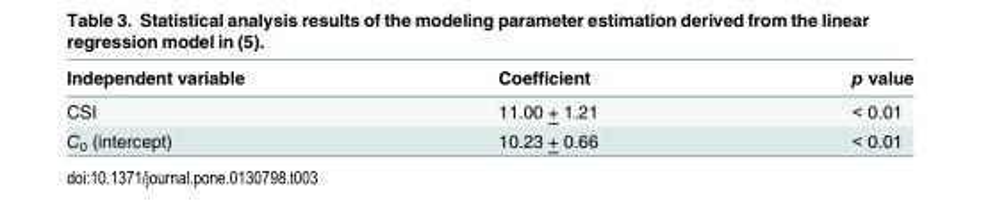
<table><thead><tr><td>Independent variable</td><td>Coefficient</td><td>p value</td></tr></thead><tbody><tr><td>CSI</td><td>11.00 + 1.21</td><td>&lt; 0.01</td></tr><tr><td>C<sub>0</sub> (intercept)</td><td>10.23 + 0.66</td><td>&lt; 0.01</td></tr></tbody></table>